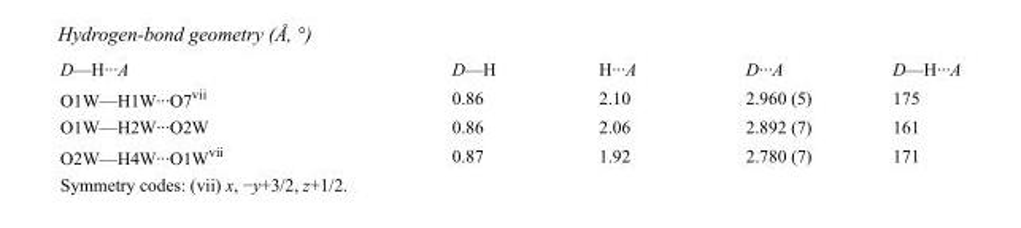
<table><tbody><tr><td>D—H···A</td><td>D—H</td><td>H···A</td><td>D···A</td><td>D—H···A</td></tr><tr><td>O1W—H1W···O7<sup>vii</sup></td><td>0.86</td><td>2.10</td><td>2.960 (5)</td><td>175</td></tr><tr><td>O1W—H2W···O2W</td><td>0.86</td><td>2.06</td><td>2.892 (7)</td><td>161</td></tr><tr><td>O2W—H4W···O1W<sup>vii</sup></td><td>0.87</td><td>1.92</td><td>2.780 (7)</td><td>171</td></tr></tbody></table>